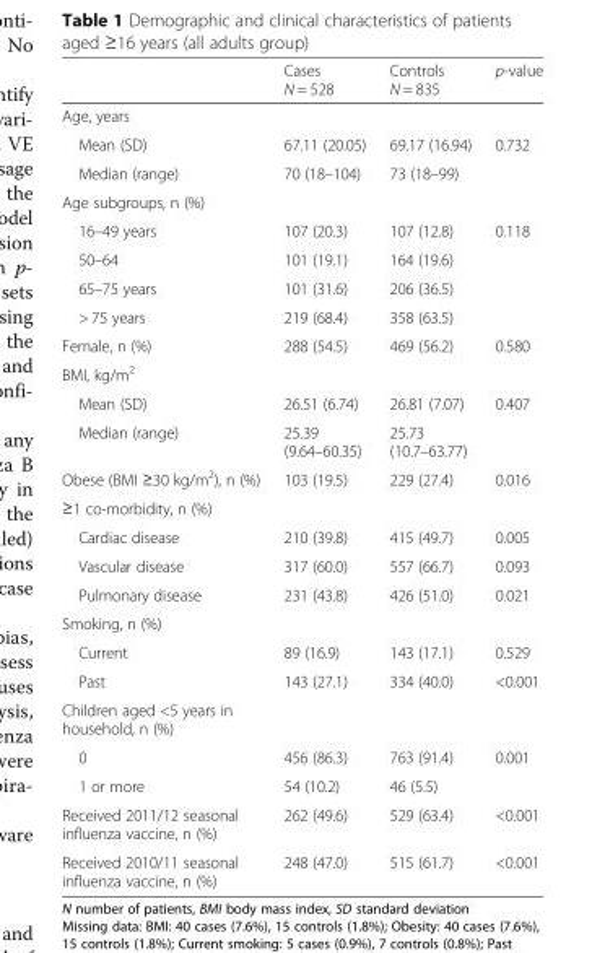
<table><thead><tr><td></td><td>Cases N = 528</td><td>Controls N = 835</td><td>p-value</td></tr></thead><tbody><tr><td colspan="4">Age, years</td></tr><tr><td>Mean (SD)</td><td>67.11 (20.05)</td><td>69.17 (16.94)</td><td>0.732</td></tr><tr><td>Median (range)</td><td>70 (18–104)</td><td>73 (18–99)</td><td></td></tr><tr><td colspan="4">Age subgroups, n (%)</td></tr><tr><td>16–49 years</td><td>107 (20.3)</td><td>107 (12.8)</td><td>0.118</td></tr><tr><td>50–64</td><td>101 (19.1)</td><td>164 (19.6)</td><td></td></tr><tr><td>65–75 years</td><td>101 (31.6)</td><td>206 (36.5)</td><td></td></tr><tr><td>&gt; 75 years</td><td>219 (68.4)</td><td>358 (63.5)</td><td></td></tr><tr><td>Female, n (%)</td><td>288 (54.5)</td><td>469 (56.2)</td><td>0.580</td></tr><tr><td colspan="4">BMI, kg/m<sup>2</sup></td></tr><tr><td>Mean (SD)</td><td>26.51 (6.74)</td><td>26.81 (7.07)</td><td>0.407</td></tr><tr><td>Median (range)</td><td>25.39 (9.64–60.35)</td><td>25.73 (10.7–63.77)</td><td></td></tr><tr><td>Obese (BMI ≥30 kg/m<sup>2</sup>), n (%)</td><td>103 (19.5)</td><td>229 (27.4)</td><td>0.016</td></tr><tr><td colspan="4">≥1 co-morbidity, n (%)</td></tr><tr><td>Cardiac disease</td><td>210 (39.8)</td><td>415 (49.7)</td><td>0.005</td></tr><tr><td>Vascular disease</td><td>317 (60.0)</td><td>557 (66.7)</td><td>0.093</td></tr><tr><td>Pulmonary disease</td><td>231 (43.8)</td><td>426 (51.0)</td><td>0.021</td></tr><tr><td colspan="4">Smoking, n (%)</td></tr><tr><td>Current</td><td>89 (16.9)</td><td>143 (17.1)</td><td>0.529</td></tr><tr><td>Past</td><td>143 (27.1)</td><td>334 (40.0)</td><td>&lt;0.001</td></tr><tr><td colspan="4">Children aged &lt;5 years in household, n (%)</td></tr><tr><td>0</td><td>456 (86.3)</td><td>763 (91.4)</td><td>0.001</td></tr><tr><td>1 or more</td><td>54 (10.2)</td><td>46 (5.5)</td><td></td></tr><tr><td>Received 2011/12 seasonal influenza vaccine, n (%)</td><td>262 (49.6)</td><td>529 (63.4)</td><td>&lt;0.001</td></tr><tr><td>Received 2010/11 seasonal influenza vaccine, n (%)</td><td>248 (47.0)</td><td>515 (61.7)</td><td>&lt;0.001</td></tr></tbody></table>